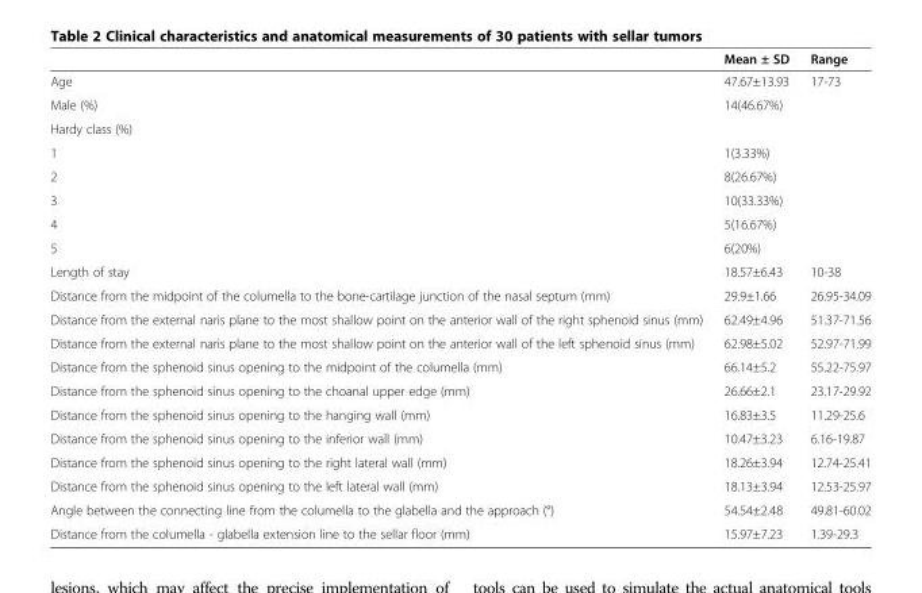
<table><thead><tr><td></td><td>Mean ± SD</td><td>Range</td></tr></thead><tbody><tr><td>Age</td><td>47.67±13.93</td><td>17-73</td></tr><tr><td>Male (%)</td><td>14(46.67%)</td><td></td></tr><tr><td colspan="3">Hardy class (%)</td></tr><tr><td>1</td><td>1(3.33%)</td><td></td></tr><tr><td>2</td><td>8(26.67%)</td><td></td></tr><tr><td>3</td><td>10(33.33%)</td><td></td></tr><tr><td>4</td><td>5(16.67%)</td><td></td></tr><tr><td>5</td><td>6(20%)</td><td></td></tr><tr><td>Length of stay</td><td>18.57±6.43</td><td>10-38</td></tr><tr><td>Distance from the midpoint of the columella to the bone-cartilage junction of the nasal septum (mm)</td><td>29.9±1.66</td><td>26.95-34.09</td></tr><tr><td>Distance from the external naris plane to the most shallow point on the anterior wall of the right sphenoid sinus (mm)</td><td>62.49±4.96</td><td>51.37-71.56</td></tr><tr><td>Distance from the external naris plane to the most shallow point on the anterior wall of the left sphenoid sinus (mm)</td><td>62.98±5.02</td><td>52.97-71.99</td></tr><tr><td>Distance from the sphenoid sinus opening to the midpoint of the columella (mm)</td><td>66.14±5.2</td><td>55.22-75.97</td></tr><tr><td>Distance from the sphenoid sinus opening to the choanal upper edge (mm)</td><td>26.66±2.1</td><td>23.17-29.92</td></tr><tr><td>Distance from the sphenoid sinus opening to the hanging wall (mm)</td><td>16.83±3.5</td><td>11.29-25.6</td></tr><tr><td>Distance from the sphenoid sinus opening to the inferior wall (mm)</td><td>10.47±3.23</td><td>6.16-19.87</td></tr><tr><td>Distance from the sphenoid sinus opening to the right lateral wall (mm)</td><td>18.26±3.94</td><td>12.74-25.41</td></tr><tr><td>Distance from the sphenoid sinus opening to the left lateral wall (mm)</td><td>18.13±3.94</td><td>12.53-25.97</td></tr><tr><td>Angle between the connecting line from the columella to the glabella and the approach (°)</td><td>54.54±2.48</td><td>49.81-60.02</td></tr><tr><td>Distance from the columella - glabella extension line to the sellar floor (mm)</td><td>15.97±7.23</td><td>1.39-29.3</td></tr></tbody></table>